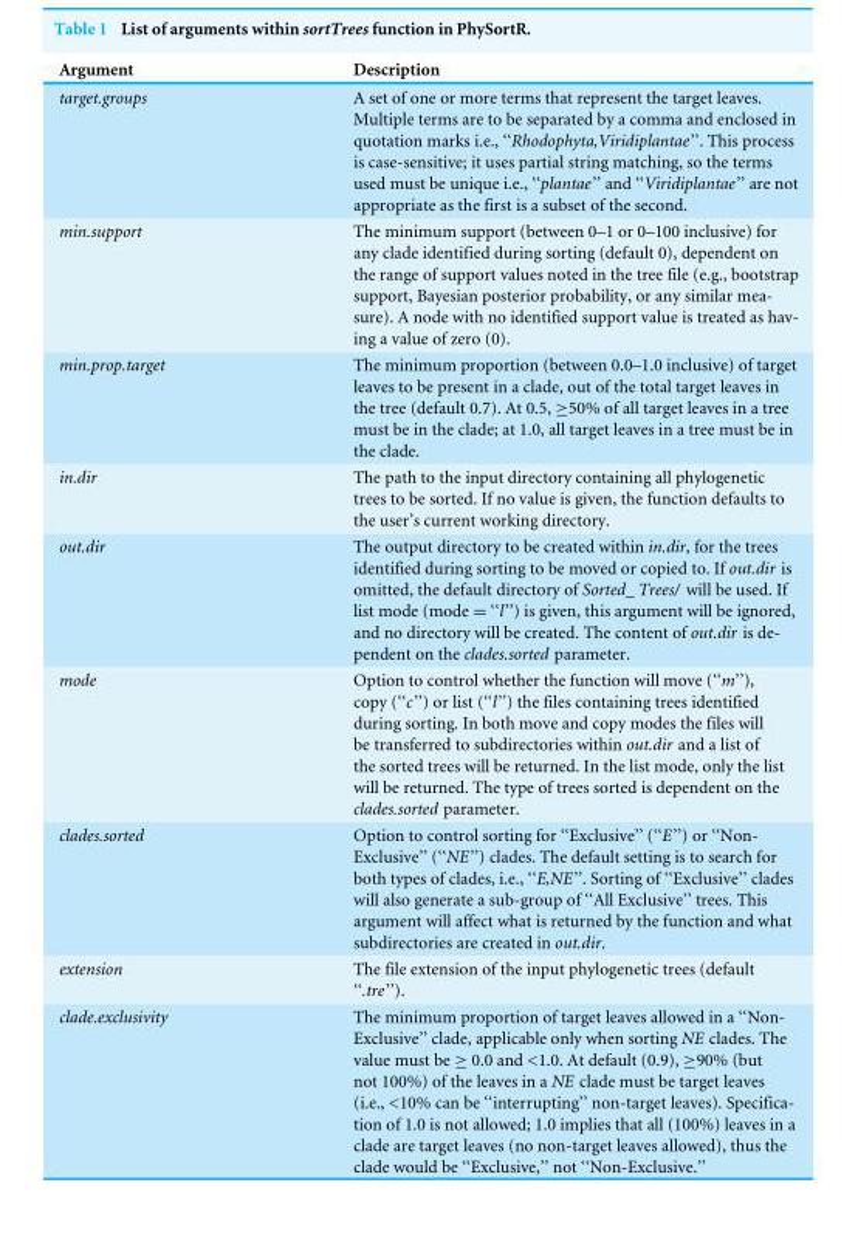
<table><thead><tr><td>Argument</td><td>Description</td></tr></thead><tbody><tr><td>target.groups</td><td>A set of one or more terms that represent the target leaves. Multiple terms are to be separated by a comma and enclosed in quotation marks i.e., ‘‘Rhodophyta,Viridiplantae’’. This process is case-sensitive; it uses partial string matching, so the terms used must be unique i.e., ‘‘plantae’’ and ‘‘Viridiplantae’’ are not appropriate as the first is a subset of the second.</td></tr><tr><td>min.support</td><td>The minimum support (between 0–1 or 0–100 inclusive) for any clade identified during sorting (default 0), dependent on the range of support values noted in the tree file (e.g., bootstrap support, Bayesian posterior probability, or any similar mea- sure). A node with no identified support value is treated as hav- ing a value of zero (0).</td></tr><tr><td>min.prop.target</td><td>The minimum proportion (between 0.0–1.0 inclusive) of target leaves to be present in a clade, out of the total target leaves in the tree (default 0.7). At 0.5, ≥50% of all target leaves in a tree must be in the clade; at 1.0, all target leaves in a tree must be in the clade.</td></tr><tr><td>in.dir</td><td>The path to the input directory containing all phylogenetic trees to be sorted. If no value is given, the function defaults to the user’s current working directory.</td></tr><tr><td>out.dir</td><td>The output directory to be created within in.dir, for the trees identified during sorting to be moved or copied to. If out.dir is omitted, the default directory of Sorted_ Trees/ will be used. If list mode (mode = ‘‘l’’) is given, this argument will be ignored, and no directory will be created. The content of out.dir is de- pendent on the clades.sorted parameter.</td></tr><tr><td>mode</td><td>Option to control whether the function will move (‘‘m’’), copy (‘‘c’’) or list (‘‘l’’) the files containing trees identified during sorting. In both move and copy modes the files will be transferred to subdirectories within out.dir and a list of the sorted trees will be returned. In the list mode, only the list will be returned. The type of trees sorted is dependent on the clades.sorted parameter.</td></tr><tr><td>clades.sorted</td><td>Option to control sorting for ‘‘Exclusive’’ (‘‘E’’) or ‘‘Non- Exclusive’’ (‘‘NE’’) clades. The default setting is to search for both types of clades, i.e., ‘‘E,NE’’. Sorting of ‘‘Exclusive’’ clades will also generate a sub-group of ‘‘All Exclusive’’ trees. This argument will affect what is returned by the function and what subdirectories are created in out.dir.</td></tr><tr><td>extension</td><td>The file extension of the input phylogenetic trees (default ‘‘.tre’’).</td></tr><tr><td>clade.exclusivity</td><td>The minimum proportion of target leaves allowed in a ‘‘Non- Exclusive’’ clade, applicable only when sorting NE clades. The value must be ≥ 0.0 and &lt;1.0. At default (0.9), ≥90% (but not 100%) of the leaves in a NE clade must be target leaves (i.e., &lt;10% can be ‘‘interrupting’’ non-target leaves). Specifica- tion of 1.0 is not allowed; 1.0 implies that all (100%) leaves in a clade are target leaves (no non-target leaves allowed), thus the clade would be ‘‘Exclusive,’’ not ‘‘Non-Exclusive.’’</td></tr></tbody></table>